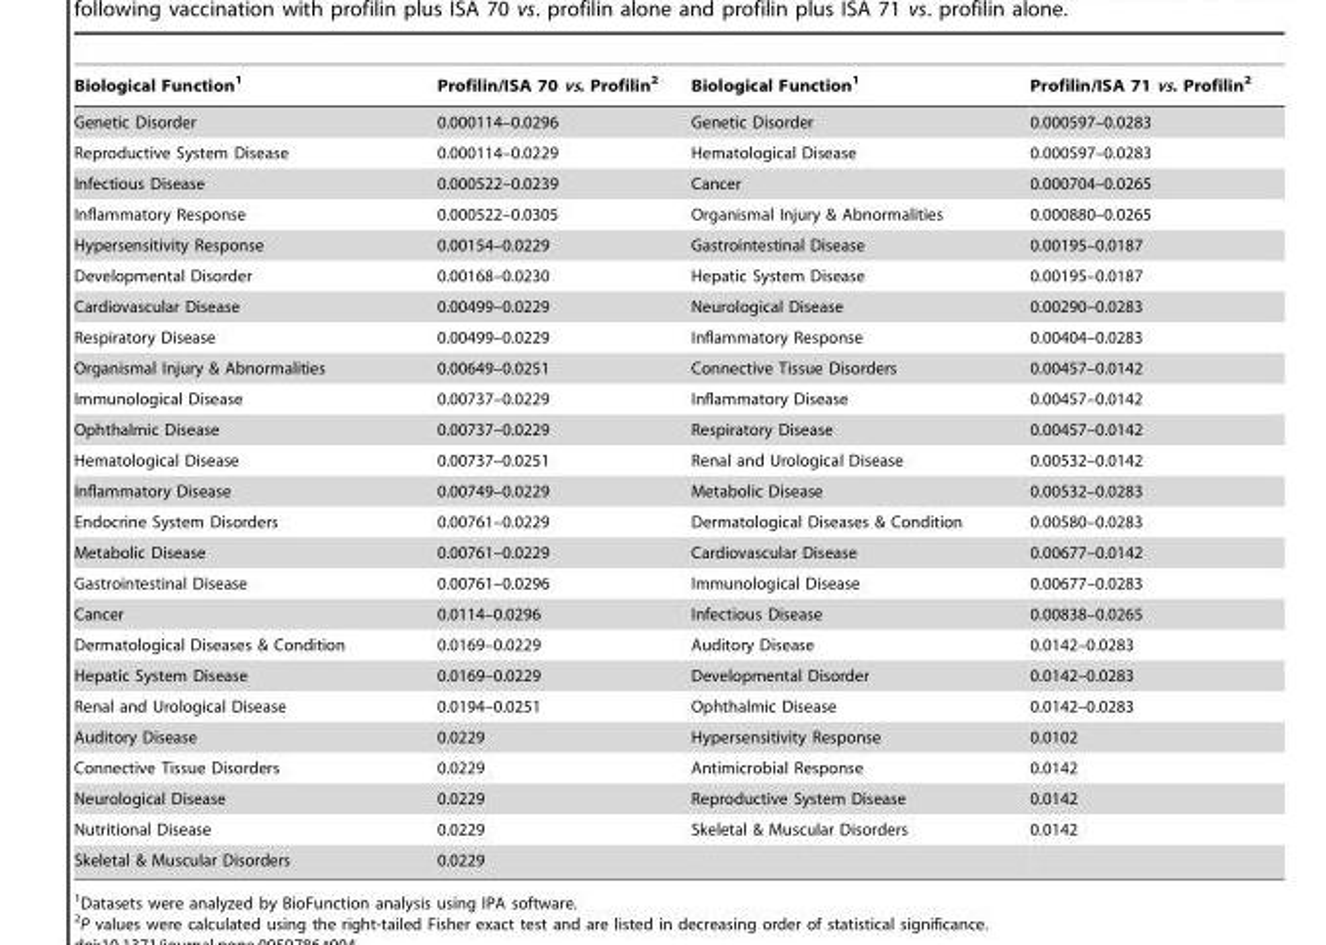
<table><thead><tr><td>Biological Function<sup>1</sup></td><td>Profilin/ISA 70 vs. Profilin<sup>2</sup></td><td>Biological Function<sup>1</sup></td><td>Profilin/ISA 71 vs. Profilin<sup>2</sup></td></tr></thead><tbody><tr><td>Genetic Disorder</td><td>0.000114–0.0296</td><td>Genetic Disorder</td><td>0.000597–0.0283</td></tr><tr><td>Reproductive System Disease</td><td>0.000114–0.0229</td><td>Hematological Disease</td><td>0.000597–0.0283</td></tr><tr><td>Infectious Disease</td><td>0.000522–0.0239</td><td>Cancer</td><td>0.000704–0.0265</td></tr><tr><td>Inflammatory Response</td><td>0.000522–0.0305</td><td>Organismal Injury &amp; Abnormalities</td><td>0.000880–0.0265</td></tr><tr><td>Hypersensitivity Response</td><td>0.00154–0.0229</td><td>Gastrointestinal Disease</td><td>0.00195–0.0187</td></tr><tr><td>Developmental Disorder</td><td>0.00168–0.0230</td><td>Hepatic System Disease</td><td>0.00195–0.0187</td></tr><tr><td>Cardiovascular Disease</td><td>0.00499–0.0229</td><td>Neurological Disease</td><td>0.00290–0.0283</td></tr><tr><td>Respiratory Disease</td><td>0.00499–0.0229</td><td>Inflammatory Response</td><td>0.00404–0.0283</td></tr><tr><td>Organismal Injury &amp; Abnormalities</td><td>0.00649–0.0251</td><td>Connective Tissue Disorders</td><td>0.00457–0.0142</td></tr><tr><td>Immunological Disease</td><td>0.00737–0.0229</td><td>Inflammatory Disease</td><td>0.00457–0.0142</td></tr><tr><td>Ophthalmic Disease</td><td>0.00737–0.0229</td><td>Respiratory Disease</td><td>0.00457–0.0142</td></tr><tr><td>Hematological Disease</td><td>0.00737–0.0251</td><td>Renal and Urological Disease</td><td>0.00532–0.0142</td></tr><tr><td>Inflammatory Disease</td><td>0.00749–0.0229</td><td>Metabolic Disease</td><td>0.00532–0.0283</td></tr><tr><td>Endocrine System Disorders</td><td>0.00761–0.0229</td><td>Dermatological Diseases &amp; Condition</td><td>0.00580–0.0283</td></tr><tr><td>Metabolic Disease</td><td>0.00761–0.0229</td><td>Cardiovascular Disease</td><td>0.00677–0.0142</td></tr><tr><td>Gastrointestinal Disease</td><td>0.00761–0.0296</td><td>Immunological Disease</td><td>0.00677–0.0283</td></tr><tr><td>Cancer</td><td>0.0114–0.0296</td><td>Infectious Disease</td><td>0.00838–0.0265</td></tr><tr><td>Dermatological Diseases &amp; Condition</td><td>0.0169–0.0229</td><td>Auditory Disease</td><td>0.0142–0.0283</td></tr><tr><td>Hepatic System Disease</td><td>0.0169–0.0229</td><td>Developmental Disorder</td><td>0.0142–0.0283</td></tr><tr><td>Renal and Urological Disease</td><td>0.0194–0.0251</td><td>Ophthalmic Disease</td><td>0.0142–0.0283</td></tr><tr><td>Auditory Disease</td><td>0.0229</td><td>Hypersensitivity Response</td><td>0.0102</td></tr><tr><td>Connective Tissue Disorders</td><td>0.0229</td><td>Antimicrobial Response</td><td>0.0142</td></tr><tr><td>Neurological Disease</td><td>0.0229</td><td>Reproductive System Disease</td><td>0.0142</td></tr><tr><td>Nutritional Disease</td><td>0.0229</td><td>Skeletal &amp; Muscular Disorders</td><td>0.0142</td></tr><tr><td>Skeletal &amp; Muscular Disorders</td><td>0.0229</td><td></td><td></td></tr></tbody></table>